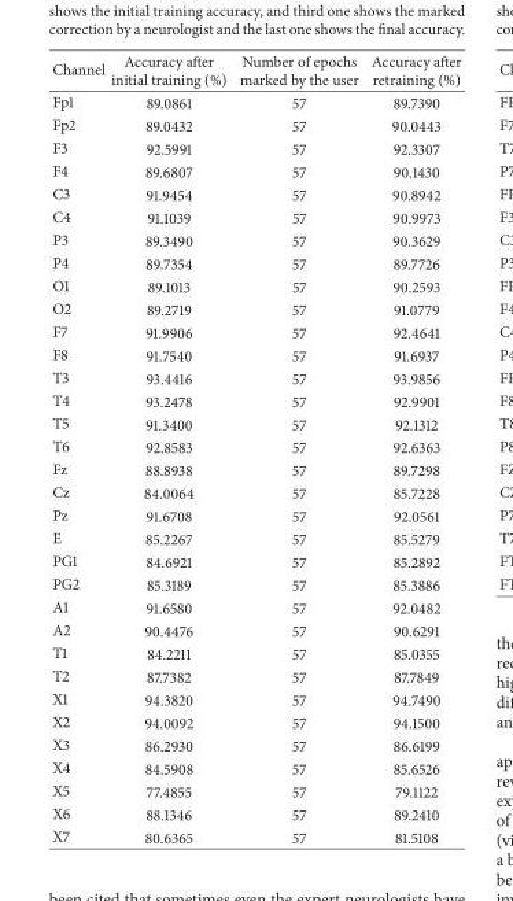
<table><thead><tr><td>Channel</td><td>Accuracy after initial training (%)</td><td>Number of epochs marked by the user</td><td>Accuracy after retraining (%)</td></tr></thead><tbody><tr><td>Fp1</td><td>89.0861</td><td>57</td><td>89.7390</td></tr><tr><td>Fp2</td><td>89.0432</td><td>57</td><td>90.0443</td></tr><tr><td>F3</td><td>92.5991</td><td>57</td><td>92.3307</td></tr><tr><td>F4</td><td>89.6807</td><td>57</td><td>90.1430</td></tr><tr><td>C3</td><td>91.9454</td><td>57</td><td>90.8942</td></tr><tr><td>C4</td><td>91.1039</td><td>57</td><td>90.9973</td></tr><tr><td>P3</td><td>89.3490</td><td>57</td><td>90.3629</td></tr><tr><td>P4</td><td>89.7354</td><td>57</td><td>89.7726</td></tr><tr><td>O1</td><td>89.1013</td><td>57</td><td>90.2593</td></tr><tr><td>O2</td><td>89.2719</td><td>57</td><td>91.0779</td></tr><tr><td>F7</td><td>91.9906</td><td>57</td><td>92.4641</td></tr><tr><td>F8</td><td>91.7540</td><td>57</td><td>91.6937</td></tr><tr><td>T3</td><td>93.4416</td><td>57</td><td>93.9856</td></tr><tr><td>T4</td><td>93.2478</td><td>57</td><td>92.9901</td></tr><tr><td>T5</td><td>91.3400</td><td>57</td><td>92.1312</td></tr><tr><td>T6</td><td>92.8583</td><td>57</td><td>92.6363</td></tr><tr><td>Fz</td><td>88.8938</td><td>57</td><td>89.7298</td></tr><tr><td>Cz</td><td>84.0064</td><td>57</td><td>85.7228</td></tr><tr><td>Pz</td><td>91.6708</td><td>57</td><td>92.0561</td></tr><tr><td>E</td><td>85.2267</td><td>57</td><td>85.5279</td></tr><tr><td>PG1</td><td>84.6921</td><td>57</td><td>85.2892</td></tr><tr><td>PG2</td><td>85.3189</td><td>57</td><td>85.3886</td></tr><tr><td>A1</td><td>91.6580</td><td>57</td><td>92.0482</td></tr><tr><td>A2</td><td>90.4476</td><td>57</td><td>90.6291</td></tr><tr><td>T1</td><td>84.2211</td><td>57</td><td>85.0355</td></tr><tr><td>T2</td><td>87.7382</td><td>57</td><td>87.7849</td></tr><tr><td>X1</td><td>94.3820</td><td>57</td><td>94.7490</td></tr><tr><td>X2</td><td>94.0092</td><td>57</td><td>94.1500</td></tr><tr><td>X3</td><td>86.2930</td><td>57</td><td>86.6199</td></tr><tr><td>X4</td><td>84.5908</td><td>57</td><td>85.6526</td></tr><tr><td>X5</td><td>77.4855</td><td>57</td><td>79.1122</td></tr><tr><td>X6</td><td>88.1346</td><td>57</td><td>89.2410</td></tr><tr><td>X7</td><td>80.6365</td><td>57</td><td>81.5108</td></tr></tbody></table>